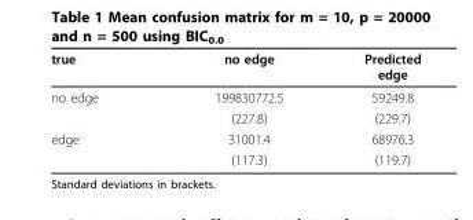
<table><thead><tr><td>true</td><td>no edge</td><td>Predicted edge</td></tr></thead><tbody><tr><td rowspan="2">no edge</td><td>199830772.5</td><td>59249.8</td></tr><tr><td>(227.8)</td><td>(229.7)</td></tr><tr><td rowspan="2">edge</td><td>31001.4</td><td>68976.3</td></tr><tr><td>(117.3)</td><td>(119.7)</td></tr></tbody></table>